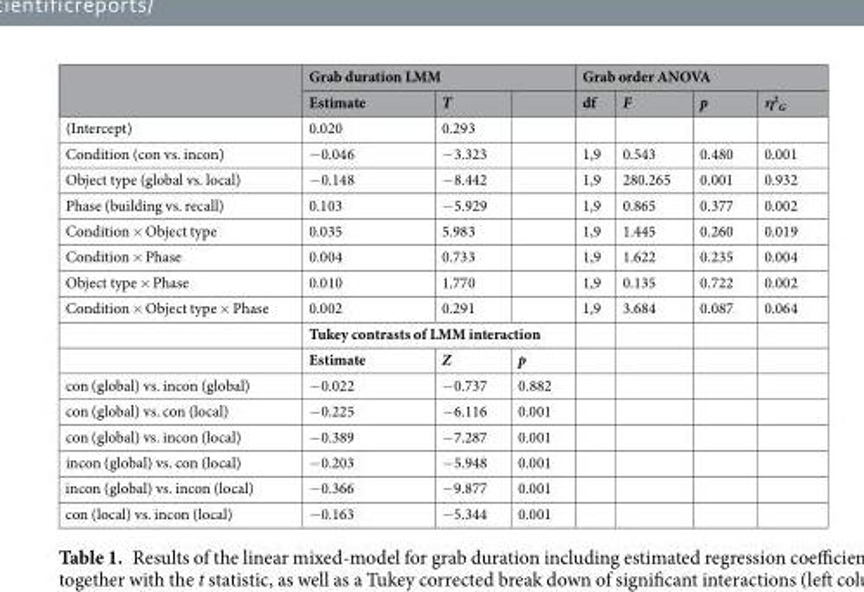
<table><thead><tr><td rowspan="2"></td><td colspan="3">Grab duration LMM</td><td colspan="4">Grab order ANOVA</td></tr><tr><td>Estimate</td><td>T</td><td></td><td>df</td><td>F</td><td>p</td><td>η<sup>2</sup> <sub>G</sub></td></tr></thead><tbody><tr><td>(Intercept)</td><td>0.020</td><td>0.293</td><td></td><td></td><td></td><td></td><td></td></tr><tr><td>Condition (con vs. incon)</td><td>−0.046</td><td>−3.323</td><td></td><td>1,9</td><td>0.543</td><td>0.480</td><td>0.001</td></tr><tr><td>Object type (global vs. local)</td><td>−0.148</td><td>−8.442</td><td></td><td>1,9</td><td>280.265</td><td>0.001</td><td>0.932</td></tr><tr><td>Phase (building vs. recall)</td><td>0.103</td><td>−5.929</td><td></td><td>1,9</td><td>0.865</td><td>0.377</td><td>0.002</td></tr><tr><td>Condition × Object type</td><td>0.035</td><td>5.983</td><td></td><td>1,9</td><td>1.445</td><td>0.260</td><td>0.019</td></tr><tr><td>Condition × Phase</td><td>0.004</td><td>0.733</td><td></td><td>1,9</td><td>1.622</td><td>0.235</td><td>0.004</td></tr><tr><td>Object type × Phase</td><td>0.010</td><td>1.770</td><td></td><td>1,9</td><td>0.135</td><td>0.722</td><td>0.002</td></tr><tr><td rowspan="3">Condition × Object type × Phase</td><td>0.002</td><td>0.291</td><td></td><td>1,9</td><td>3.684</td><td>0.087</td><td>0.064</td></tr><tr><td colspan="3">Tukey contrasts of LMM interaction</td><td></td><td></td><td></td><td></td></tr><tr><td>Estimate</td><td>Z</td><td>p</td><td></td><td></td><td></td><td></td></tr><tr><td>con (global) vs. incon (global)</td><td>−0.022</td><td>−0.737</td><td>0.882</td><td></td><td></td><td></td><td></td></tr><tr><td>con (global) vs. con (local)</td><td>−0.225</td><td>−6.116</td><td>0.001</td><td></td><td></td><td></td><td></td></tr><tr><td>con (global) vs. incon (local)</td><td>−0.389</td><td>−7.287</td><td>0.001</td><td></td><td></td><td></td><td></td></tr><tr><td>incon (global) vs. con (local)</td><td>−0.203</td><td>−5.948</td><td>0.001</td><td></td><td></td><td></td><td></td></tr><tr><td>incon (global) vs. incon (local)</td><td>−0.366</td><td>−9.877</td><td>0.001</td><td></td><td></td><td></td><td></td></tr><tr><td>con (local) vs. incon (local)</td><td>−0.163</td><td>−5.344</td><td>0.001</td><td></td><td></td><td></td><td></td></tr></tbody></table>